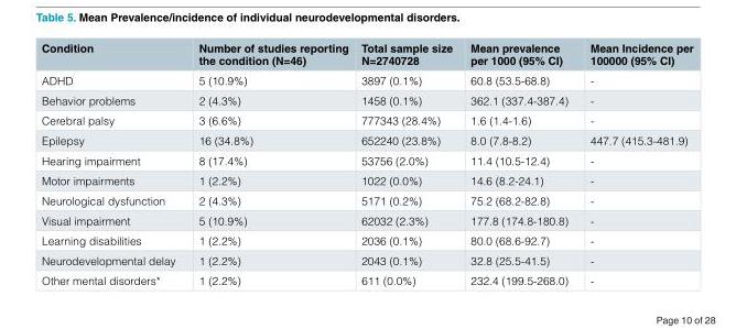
<table><thead><tr><td>Condition</td><td>Number of studies reporting the condition (N=46)</td><td>Total sample size N=2740728</td><td>Mean prevalence per 1000 (95% CI)</td><td>Mean Incidence per 100000 (95% CI)</td></tr></thead><tbody><tr><td>ADHD</td><td>5 (10.9%)</td><td>3897 (0.1%)</td><td>60.8 (53.5-68.8)</td><td>-</td></tr><tr><td>Behavior problems</td><td>2 (4.3%)</td><td>1458 (0.1%)</td><td>362.1 (337.4-387.4)</td><td>-</td></tr><tr><td>Cerebral palsy</td><td>3 (6.6%)</td><td>777343 (28.4%)</td><td>1.6 (1.4-1.6)</td><td>-</td></tr><tr><td>Epilepsy</td><td>16 (34.8%)</td><td>652240 (23.8%)</td><td>8.0 (7.8-8.2)</td><td>447.7 (415.3-481.9)</td></tr><tr><td>Hearing impairment</td><td>8 (17.4%)</td><td>53756 (2.0%)</td><td>11.4 (10.5-12.4)</td><td>-</td></tr><tr><td>Motor impairments</td><td>1 (2.2%)</td><td>1022 (0.0%)</td><td>14.6 (8.2-24.1)</td><td>-</td></tr><tr><td>Neurological dysfunction</td><td>2 (4.3%)</td><td>5171 (0.2%)</td><td>75.2 (68.2-82.8)</td><td>-</td></tr><tr><td>Visual impairment</td><td>5 (10.9%)</td><td>62032 (2.3%)</td><td>177.8 (174.8-180.8)</td><td>-</td></tr><tr><td>Learning disabilities</td><td>1 (2.2%)</td><td>2036 (0.1%)</td><td>80.0 (68.6-92.7)</td><td>-</td></tr><tr><td>Neurodevelopmental delay</td><td>1 (2.2%)</td><td>2043 (0.1%)</td><td>32.8 (25.5-41.5)</td><td>-</td></tr><tr><td>Other mental disorders*</td><td>1 (2.2%)</td><td>611 (0.0%)</td><td>232.4 (199.5-268.0)</td><td>-</td></tr></tbody></table>